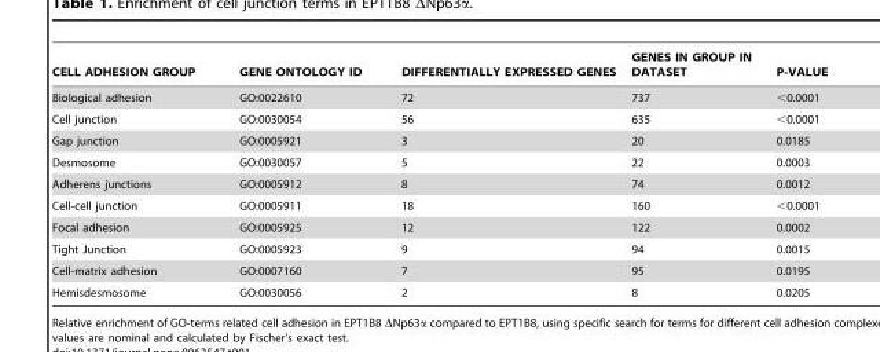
<table><thead><tr><td>CELL ADHESION GROUP</td><td>GENE ONTOLOGY ID</td><td>DIFFERENTIALLY EXPRESSED GENES</td><td>GENES IN GROUP IN DATASET</td><td>P-VALUE</td></tr></thead><tbody><tr><td>Biological adhesion</td><td>GO:0022610</td><td>72</td><td>737</td><td>&lt;0.0001</td></tr><tr><td>Cell junction</td><td>GO:0030054</td><td>56</td><td>635</td><td>&lt;0.0001</td></tr><tr><td>Gap junction</td><td>GO:0005921</td><td>3</td><td>20</td><td>0.0185</td></tr><tr><td>Desmosome</td><td>GO:0030057</td><td>5</td><td>22</td><td>0.0003</td></tr><tr><td>Adherens junctions</td><td>GO:0005912</td><td>8</td><td>74</td><td>0.0012</td></tr><tr><td>Cell-cell junction</td><td>GO:0005911</td><td>18</td><td>160</td><td>&lt;0.0001</td></tr><tr><td>Focal adhesion</td><td>GO:0005925</td><td>12</td><td>122</td><td>0.0002</td></tr><tr><td>Tight Junction</td><td>GO:0005923</td><td>9</td><td>94</td><td>0.0015</td></tr><tr><td>Cell-matrix adhesion</td><td>GO:0007160</td><td>7</td><td>95</td><td>0.0195</td></tr><tr><td>Hemisdesmosome</td><td>GO:0030056</td><td>2</td><td>8</td><td>0.0205</td></tr></tbody></table>